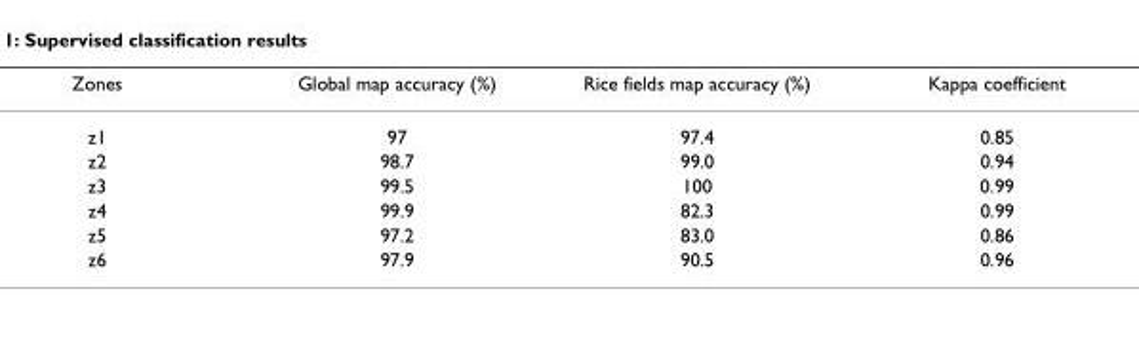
<table><thead><tr><td>Zones</td><td>Global map accuracy (%)</td><td>Rice fields map accuracy (%)</td><td>Kappa coefficient</td></tr></thead><tbody><tr><td>z1</td><td>97</td><td>97.4</td><td>0.85</td></tr><tr><td>z2</td><td>98.7</td><td>99.0</td><td>0.94</td></tr><tr><td>z3</td><td>99.5</td><td>100</td><td>0.99</td></tr><tr><td>z4</td><td>99.9</td><td>82.3</td><td>0.99</td></tr><tr><td>z5</td><td>97.2</td><td>83.0</td><td>0.86</td></tr><tr><td>z6</td><td>97.9</td><td>90.5</td><td>0.96</td></tr></tbody></table>